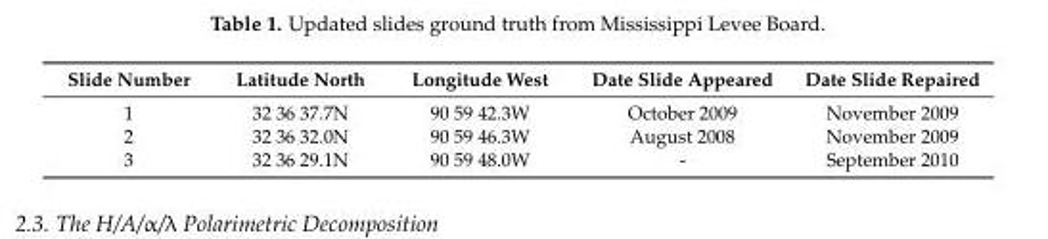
<table><thead><tr><td>Slide Number</td><td>Latitude North</td><td>Longitude West</td><td>Date Slide Appeared</td><td>Date Slide Repaired</td></tr></thead><tbody><tr><td>1</td><td>32 36 37.7N</td><td>90 59 42.3W</td><td>October 2009</td><td>November 2009</td></tr><tr><td>2</td><td>32 36 32.0N</td><td>90 59 46.3W</td><td>August 2008</td><td>November 2009</td></tr><tr><td>3</td><td>32 36 29.1N</td><td>90 59 48.0W</td><td>-</td><td>September 2010</td></tr></tbody></table>